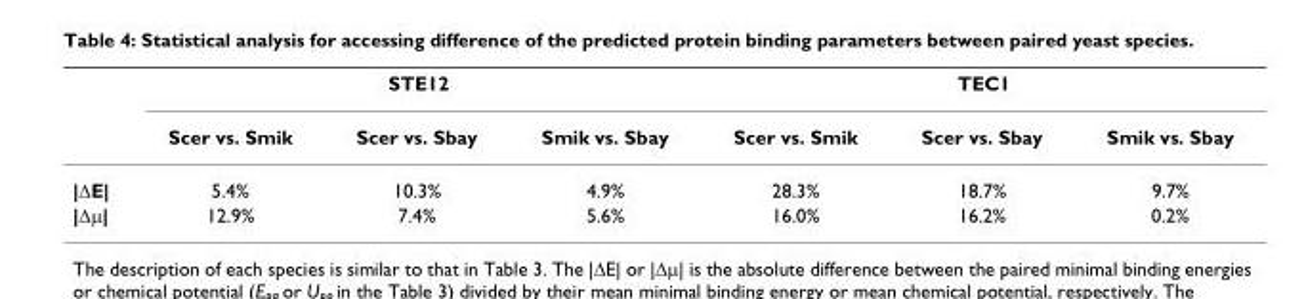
<table><thead><tr><td rowspan="2"></td><td colspan="3">STE12</td><td colspan="3">TEC1</td></tr><tr><td>Scer vs. Smik</td><td>Scer vs. Sbay</td><td>Smik vs. Sbay</td><td>Scer vs. Smik</td><td>Scer vs. Sbay</td><td>Smik vs. Sbay</td></tr></thead><tbody><tr><td>|ΔE|</td><td>5.4%</td><td>10.3%</td><td>4.9%</td><td>28.3%</td><td>18.7%</td><td>9.7%</td></tr><tr><td>|Δμ|</td><td>12.9%</td><td>7.4%</td><td>5.6%</td><td>16.0%</td><td>16.2%</td><td>0.2%</td></tr></tbody></table>